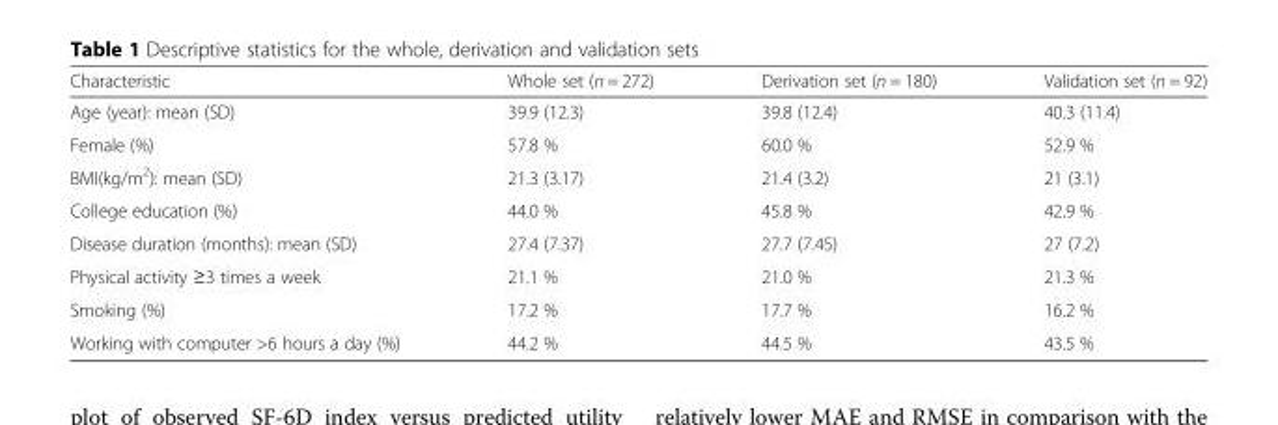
<table><thead><tr><td>Characteristic</td><td>Whole set (n = 272)</td><td>Derivation set (n = 180)</td><td>Validation set (n = 92)</td></tr></thead><tbody><tr><td>Age (year): mean (SD)</td><td>39.9 (12.3)</td><td>39.8 (12.4)</td><td>40.3 (11.4)</td></tr><tr><td>Female (%)</td><td>57.8 %</td><td>60.0 %</td><td>52.9 %</td></tr><tr><td>BMI(kg/m<sup>2</sup>): mean (SD)</td><td>21.3 (3.17)</td><td>21.4 (3.2)</td><td>21 (3.1)</td></tr><tr><td>College education (%)</td><td>44.0 %</td><td>45.8 %</td><td>42.9 %</td></tr><tr><td>Disease duration (months): mean (SD)</td><td>27.4 (7.37)</td><td>27.7 (7.45)</td><td>27 (7.2)</td></tr><tr><td>Physical activity ≥3 times a week</td><td>21.1 %</td><td>21.0 %</td><td>21.3 %</td></tr><tr><td>Smoking (%)</td><td>17.2 %</td><td>17.7 %</td><td>16.2 %</td></tr><tr><td>Working with computer &gt;6 hours a day (%)</td><td>44.2 %</td><td>44.5 %</td><td>43.5 %</td></tr></tbody></table>